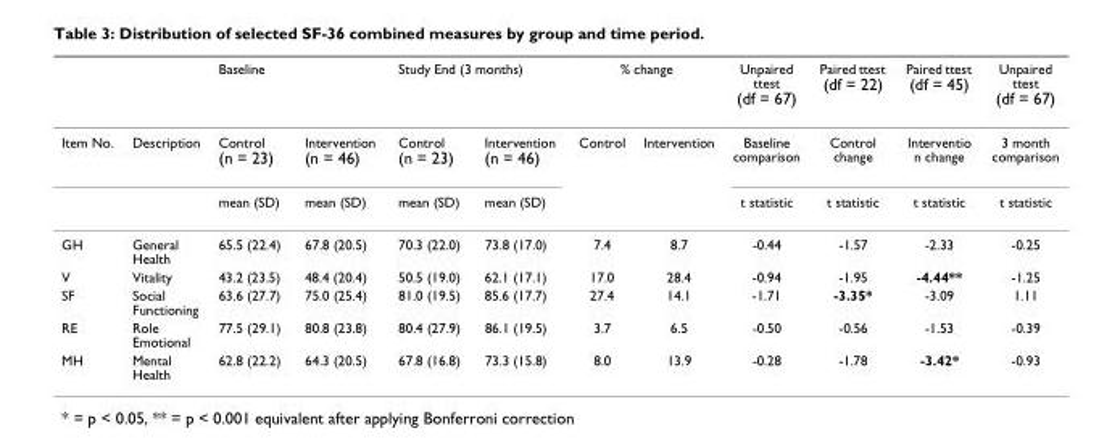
<table><thead><tr><td rowspan="2">Item No.</td><td rowspan="2">Description</td><td colspan="2">Baseline</td><td colspan="2">Study End (3 months)</td><td colspan="2">% change</td><td rowspan="2">Unpaired ttest (df = 67) Baseline comparison</td><td rowspan="2">Paired ttest (df = 22) Control change</td><td rowspan="2">Paired ttest (df = 45) Interventio n change</td><td rowspan="2">Unpaired ttest (df = 67) 3 month comparison</td></tr><tr><td>Control (n = 23)</td><td>Intervention (n = 46)</td><td>Control (n = 23)</td><td>Intervention (n = 46)</td><td>Control</td><td>Intervention</td></tr></thead><tbody><tr><td></td><td></td><td>mean (SD)</td><td>mean (SD)</td><td>mean (SD)</td><td>mean (SD)</td><td></td><td></td><td>t statistic</td><td>t statistic</td><td>t statistic</td><td>t statistic</td></tr><tr><td>GH</td><td>General Health</td><td>65.5 (22.4)</td><td>67.8 (20.5)</td><td>70.3 (22.0)</td><td>73.8 (17.0)</td><td>7.4</td><td>8.7</td><td>-0.44</td><td>-1.57</td><td>-2.33</td><td>-0.25</td></tr><tr><td>V</td><td>Vitality</td><td>43.2 (23.5)</td><td>48.4 (20.4)</td><td>50.5 (19.0)</td><td>62.1 (17.1)</td><td>17.0</td><td>28.4</td><td>-0.94</td><td>-1.95</td><td>-4.44**</td><td>-1.25</td></tr><tr><td>SF</td><td>Social Functioning</td><td>63.6 (27.7)</td><td>75.0 (25.4)</td><td>81.0 (19.5)</td><td>85.6 (17.7)</td><td>27.4</td><td>14.1</td><td>-1.71</td><td>-3.35*</td><td>-3.09</td><td>1.11</td></tr><tr><td>RE</td><td>Role Emotional</td><td>77.5 (29.1)</td><td>80.8 (23.8)</td><td>80.4 (27.9)</td><td>86.1 (19.5)</td><td>3.7</td><td>6.5</td><td>-0.50</td><td>-0.56</td><td>-1.53</td><td>-0.39</td></tr><tr><td>MH</td><td>Mental Health</td><td>62.8 (22.2)</td><td>64.3 (20.5)</td><td>67.8 (16.8)</td><td>73.3 (15.8)</td><td>8.0</td><td>13.9</td><td>-0.28</td><td>-1.78</td><td>-3.42*</td><td>-0.93</td></tr></tbody></table>